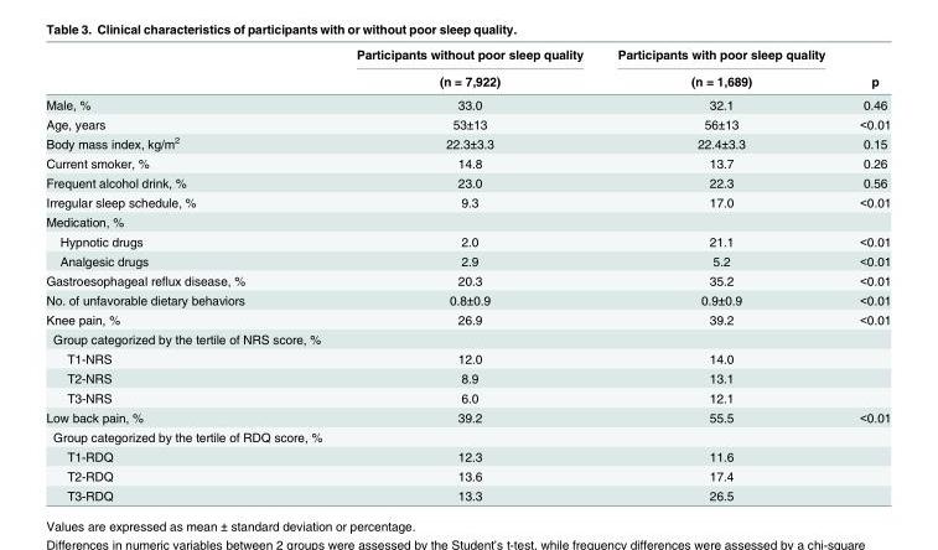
<table><thead><tr><td rowspan="2"></td><td rowspan="2">Participants without poor sleep quality (n = 7,922)</td><td rowspan="2">Participants with poor sleep quality (n = 1,689)</td><td rowspan="2">p</td></tr><tr></tr></thead><tbody><tr><td>Male, %</td><td>33.0</td><td>32.1</td><td>0.46</td></tr><tr><td>Age, years</td><td>53±13</td><td>56±13</td><td>&lt;0.01</td></tr><tr><td>Body mass index, kg/m<sup>2</sup></td><td>22.3±3.3</td><td>22.4±3.3</td><td>0.15</td></tr><tr><td>Current smoker, %</td><td>14.8</td><td>13.7</td><td>0.26</td></tr><tr><td>Frequent alcohol drink, %</td><td>23.0</td><td>22.3</td><td>0.56</td></tr><tr><td>Irregular sleep schedule, %</td><td>9.3</td><td>17.0</td><td>&lt;0.01</td></tr><tr><td colspan="4">Medication, %</td></tr><tr><td>Hypnotic drugs</td><td>2.0</td><td>21.1</td><td>&lt;0.01</td></tr><tr><td>Analgesic drugs</td><td>2.9</td><td>5.2</td><td>&lt;0.01</td></tr><tr><td>Gastroesophageal reflux disease, %</td><td>20.3</td><td>35.2</td><td>&lt;0.01</td></tr><tr><td>No. of unfavorable dietary behaviors</td><td>0.8±0.9</td><td>0.9±0.9</td><td>&lt;0.01</td></tr><tr><td>Knee pain, %</td><td>26.9</td><td>39.2</td><td>&lt;0.01</td></tr><tr><td colspan="4">Group categorized by the tertile of NRS score, %</td></tr><tr><td>T1-NRS</td><td>12.0</td><td>14.0</td><td></td></tr><tr><td>T2-NRS</td><td>8.9</td><td>13.1</td><td></td></tr><tr><td>T3-NRS</td><td>6.0</td><td>12.1</td><td></td></tr><tr><td>Low back pain, %</td><td>39.2</td><td>55.5</td><td>&lt;0.01</td></tr><tr><td colspan="4">Group categorized by the tertile of RDQ score, %</td></tr><tr><td>T1-RDQ</td><td>12.3</td><td>11.6</td><td></td></tr><tr><td>T2-RDQ</td><td>13.6</td><td>17.4</td><td></td></tr><tr><td>T3-RDQ</td><td>13.3</td><td>26.5</td><td></td></tr></tbody></table>